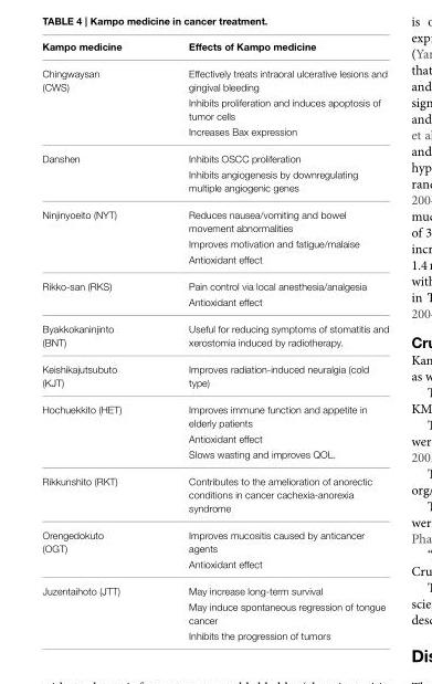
<table><thead><tr><td>Kampo medicine</td><td>Effects of Kampo medicine</td></tr></thead><tbody><tr><td rowspan="3">Chingwaysan (CWS)</td><td>Effectively treats intraoral ulcerative lesions and gingival bleeding</td></tr><tr><td>Inhibits proliferation and induces apoptosis of tumor cells</td></tr><tr><td>Increases Bax expression</td></tr><tr><td rowspan="2">Danshen</td><td>Inhibits OSCC proliferation</td></tr><tr><td>Inhibits angiogenesis by downregulating multiple angiogenic genes</td></tr><tr><td rowspan="3">Ninjinyoeito (NYT)</td><td>Reduces nausea/vomiting and bowel movement abnormalities</td></tr><tr><td>Improves motivation and fatigue/malaise</td></tr><tr><td>Antioxidant effect</td></tr><tr><td rowspan="2">Rikko-san (RKS)</td><td>Pain control via local anesthesia/analgesia</td></tr><tr><td>Antioxidant effect</td></tr><tr><td>Byakkokaninjinto (BNT)</td><td>Useful for reducing symptoms of stomatitis and xerostomia induced by radiotherapy.</td></tr><tr><td>Keishikajutsubuto (KJT)</td><td>Improves radiation-induced neuralgia (cold type)</td></tr><tr><td rowspan="3">Hochuekkito (HET)</td><td>Improves immune function and appetite in elderly patients</td></tr><tr><td>Antioxidant effect</td></tr><tr><td>Slows wasting and improves QOL.</td></tr><tr><td>Rikkunshito (RKT)</td><td>Contributes to the amelioration of anorectic conditions in cancer cachexia-anorexia syndrome</td></tr><tr><td rowspan="2">Orengedokuto (OGT)</td><td>Improves mucositis caused by anticancer agents</td></tr><tr><td>Antioxidant effect</td></tr><tr><td rowspan="3">Juzentaihoto (JTT)</td><td>May increase long-term survival</td></tr><tr><td>May induce spontaneous regression of tongue cancer</td></tr><tr><td>Inhibits the progression of tumors</td></tr></tbody></table>